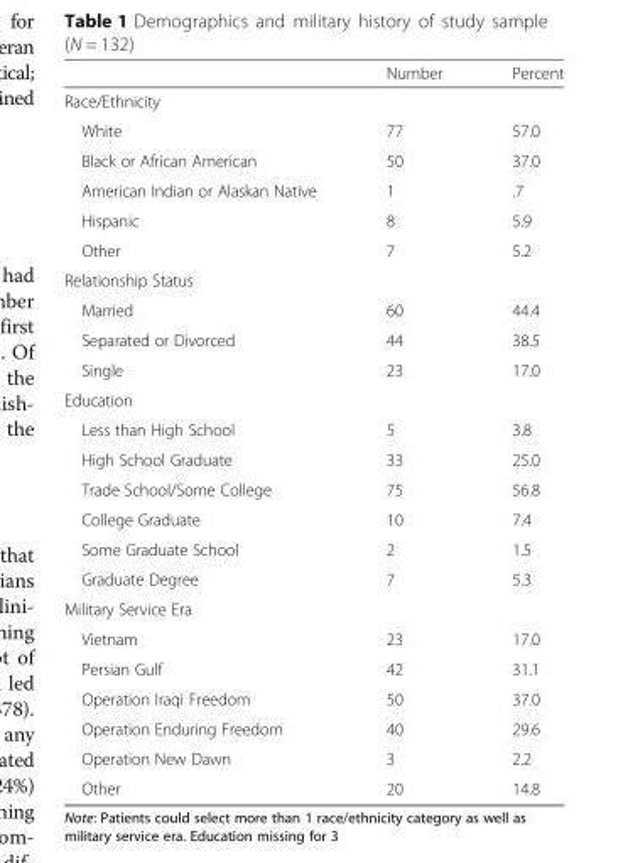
<table><thead><tr><td></td><td>Number</td><td>Percent</td></tr></thead><tbody><tr><td colspan="3">Race/Ethnicity</td></tr><tr><td>White</td><td>77</td><td>57.0</td></tr><tr><td>Black or African American</td><td>50</td><td>37.0</td></tr><tr><td>American Indian or Alaskan Native</td><td>1</td><td>.7</td></tr><tr><td>Hispanic</td><td>8</td><td>5.9</td></tr><tr><td>Other</td><td>7</td><td>5.2</td></tr><tr><td colspan="3">Relationship Status</td></tr><tr><td>Married</td><td>60</td><td>44.4</td></tr><tr><td>Separated or Divorced</td><td>44</td><td>38.5</td></tr><tr><td>Single</td><td>23</td><td>17.0</td></tr><tr><td colspan="3">Education</td></tr><tr><td>Less than High School</td><td>5</td><td>3.8</td></tr><tr><td>High School Graduate</td><td>33</td><td>25.0</td></tr><tr><td>Trade School/Some College</td><td>75</td><td>56.8</td></tr><tr><td>College Graduate</td><td>10</td><td>7.4</td></tr><tr><td>Some Graduate School</td><td>2</td><td>1.5</td></tr><tr><td>Graduate Degree</td><td>7</td><td>5.3</td></tr><tr><td colspan="3">Military Service Era</td></tr><tr><td>Vietnam</td><td>23</td><td>17.0</td></tr><tr><td>Persian Gulf</td><td>42</td><td>31.1</td></tr><tr><td>Operation Iraqi Freedom</td><td>50</td><td>37.0</td></tr><tr><td>Operation Enduring Freedom</td><td>40</td><td>29.6</td></tr><tr><td>Operation New Dawn</td><td>3</td><td>2.2</td></tr><tr><td>Other</td><td>20</td><td>14.8</td></tr></tbody></table>